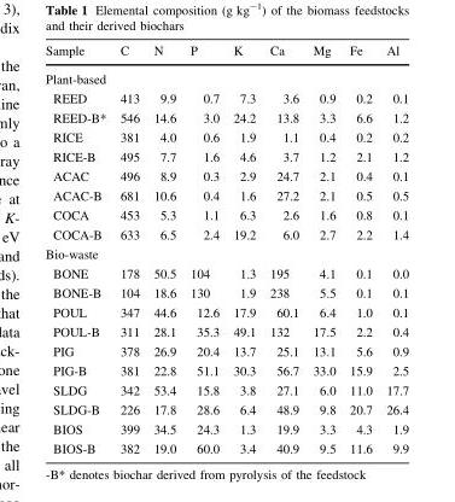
<table><thead><tr><td>Sample</td><td>C</td><td>N</td><td>P</td><td>K</td><td>Ca</td><td>Mg</td><td>Fe</td><td>Al</td></tr></thead><tbody><tr><td colspan="9">Plant-based</td></tr><tr><td>REED</td><td>413</td><td>9.9</td><td>0.7</td><td>7.3</td><td>3.6</td><td>0.9</td><td>0.2</td><td>0.1</td></tr><tr><td>REED-B*</td><td>546</td><td>14.6</td><td>3.0</td><td>24.2</td><td>13.8</td><td>3.3</td><td>6.6</td><td>1.2</td></tr><tr><td>RICE</td><td>381</td><td>4.0</td><td>0.6</td><td>1.9</td><td>1.1</td><td>0.4</td><td>0.2</td><td>0.2</td></tr><tr><td>RICE-B</td><td>495</td><td>7.7</td><td>1.6</td><td>4.6</td><td>3.7</td><td>1.2</td><td>2.1</td><td>1.2</td></tr><tr><td>ACAC</td><td>496</td><td>8.9</td><td>0.3</td><td>2.9</td><td>24.7</td><td>2.1</td><td>0.4</td><td>0.1</td></tr><tr><td>ACAC-B</td><td>681</td><td>10.6</td><td>0.4</td><td>1.6</td><td>27.2</td><td>2.1</td><td>0.5</td><td>0.5</td></tr><tr><td>COCA</td><td>453</td><td>5.3</td><td>1.1</td><td>6.3</td><td>2.6</td><td>1.6</td><td>0.8</td><td>0.1</td></tr><tr><td>COCA-B</td><td>633</td><td>6.5</td><td>2.4</td><td>19.2</td><td>6.0</td><td>2.7</td><td>2.2</td><td>1.4</td></tr><tr><td colspan="9">Bio-waste</td></tr><tr><td>BONE</td><td>178</td><td>50.5</td><td>104</td><td>1.3</td><td>195</td><td>4.1</td><td>0.1</td><td>0.0</td></tr><tr><td>BONE-B</td><td>104</td><td>18.6</td><td>130</td><td>1.9</td><td>238</td><td>5.5</td><td>0.1</td><td>0.1</td></tr><tr><td>POUL</td><td>347</td><td>44.6</td><td>12.6</td><td>17.9</td><td>60.1</td><td>6.4</td><td>1.0</td><td>0.1</td></tr><tr><td>POUL-B</td><td>311</td><td>28.1</td><td>35.3</td><td>49.1</td><td>132</td><td>17.5</td><td>2.2</td><td>0.4</td></tr><tr><td>PIG</td><td>378</td><td>26.9</td><td>20.4</td><td>13.7</td><td>25.1</td><td>13.1</td><td>5.6</td><td>0.9</td></tr><tr><td>PIG-B</td><td>381</td><td>22.8</td><td>51.1</td><td>30.3</td><td>56.7</td><td>33.0</td><td>15.9</td><td>2.5</td></tr><tr><td>SLDG</td><td>342</td><td>53.4</td><td>15.8</td><td>3.8</td><td>27.1</td><td>6.0</td><td>11.0</td><td>17.7</td></tr><tr><td>SLDG-B</td><td>226</td><td>17.8</td><td>28.6</td><td>6.4</td><td>48.9</td><td>9.8</td><td>20.7</td><td>26.4</td></tr><tr><td>BIOS</td><td>399</td><td>34.5</td><td>24.3</td><td>1.3</td><td>19.9</td><td>3.3</td><td>4.3</td><td>1.9</td></tr><tr><td>BIOS-B</td><td>382</td><td>19.0</td><td>60.0</td><td>3.4</td><td>40.9</td><td>9.5</td><td>11.6</td><td>9.9</td></tr></tbody></table>